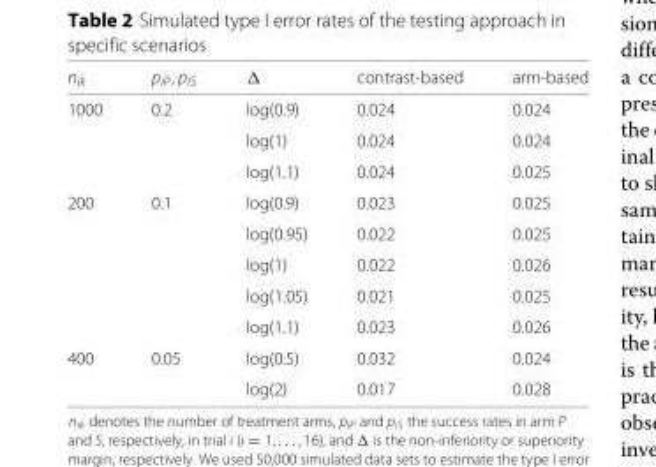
<table><thead><tr><td>n<sub>ik</sub></td><td>p<sub>iP</sub>, p<sub>iS</sub></td><td>Δ</td><td>contrast-based</td><td>arm-based</td></tr></thead><tbody><tr><td rowspan="3">1000</td><td>0.2</td><td>log(0.9)</td><td>0.024</td><td>0.024</td></tr><tr><td></td><td>log(1)</td><td>0.024</td><td>0.024</td></tr><tr><td></td><td>log(1.1)</td><td>0.024</td><td>0.025</td></tr><tr><td rowspan="5">200</td><td>0.1</td><td>log(0.9)</td><td>0.023</td><td>0.025</td></tr><tr><td></td><td>log(0.95)</td><td>0.022</td><td>0.025</td></tr><tr><td></td><td>log(1)</td><td>0.022</td><td>0.026</td></tr><tr><td></td><td>log(1.05)</td><td>0.021</td><td>0.025</td></tr><tr><td></td><td>log(1.1)</td><td>0.023</td><td>0.026</td></tr><tr><td rowspan="2">400</td><td>0.05</td><td>log(0.5)</td><td>0.032</td><td>0.024</td></tr><tr><td></td><td>log(2)</td><td>0.017</td><td>0.028</td></tr></tbody></table>